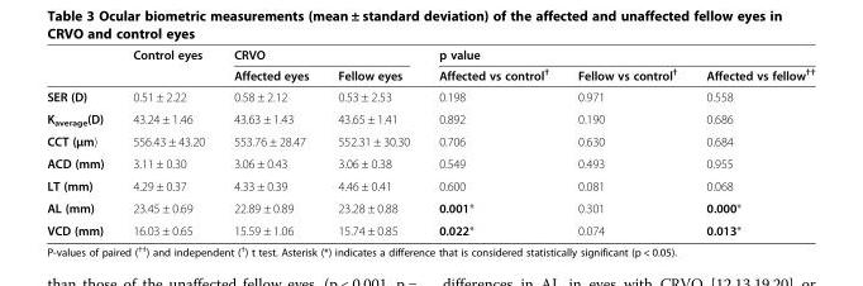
<table><thead><tr><td rowspan="2"></td><td rowspan="2">Control eyes</td><td colspan="2">CRVO</td><td colspan="3">p value</td></tr><tr><td>Affected eyes</td><td>Fellow eyes</td><td>Affected vs control<sup>†</sup></td><td>Fellow vs control<sup>†</sup></td><td>Affected vs fellow<sup>††</sup></td></tr></thead><tbody><tr><td>SER (D)</td><td>0.51 ± 2.22</td><td>0.58 ± 2.12</td><td>0.53 ± 2.53</td><td>0.198</td><td>0.971</td><td>0.558</td></tr><tr><td>K<sub>average</sub>(D)</td><td>43.24 ± 1.46</td><td>43.63 ± 1.43</td><td>43.65 ± 1.41</td><td>0.892</td><td>0.190</td><td>0.686</td></tr><tr><td>CCT (μm)</td><td>556.43 ± 43.20</td><td>553.76 ± 28.47</td><td>552.31 ± 30.30</td><td>0.706</td><td>0.630</td><td>0.684</td></tr><tr><td>ACD (mm)</td><td>3.11 ± 0.30</td><td>3.06 ± 0.43</td><td>3.06 ± 0.38</td><td>0.549</td><td>0.493</td><td>0.955</td></tr><tr><td>LT (mm)</td><td>4.29 ± 0.37</td><td>4.33 ± 0.39</td><td>4.46 ± 0.41</td><td>0.600</td><td>0.081</td><td>0.068</td></tr><tr><td>AL (mm)</td><td>23.45 ± 0.69</td><td>22.89 ± 0.89</td><td>23.28 ± 0.88</td><td>0.001*</td><td>0.301</td><td>0.000*</td></tr><tr><td>VCD (mm)</td><td>16.03 ± 0.65</td><td>15.59 ± 1.06</td><td>15.74 ± 0.85</td><td>0.022*</td><td>0.074</td><td>0.013*</td></tr></tbody></table>